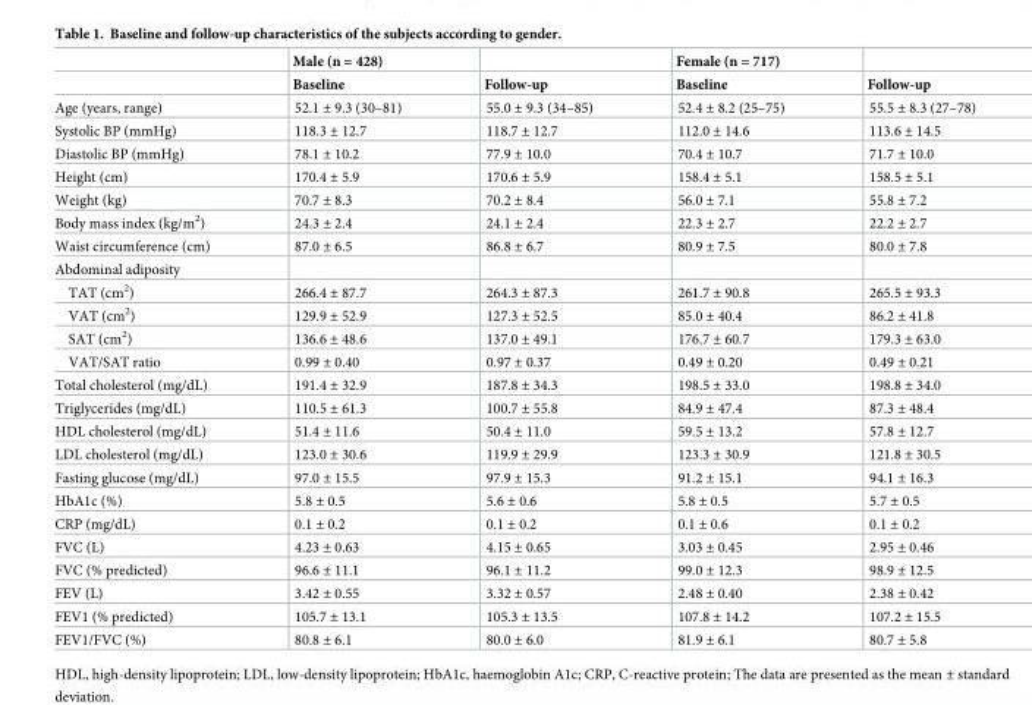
<table><thead><tr><td rowspan="2"></td><td rowspan="2">Male (n = 428) Baseline</td><td rowspan="2">Follow-up</td><td rowspan="2">Female (n = 717) Baseline</td><td rowspan="2">Follow-up</td></tr><tr></tr></thead><tbody><tr><td>Age (years, range)</td><td>52.1 ± 9.3 (30–81)</td><td>55.0 ± 9.3 (34–85)</td><td>52.4 ± 8.2 (25–75)</td><td>55.5 ± 8.3 (27–78)</td></tr><tr><td>Systolic BP (mmHg)</td><td>118.3 ± 12.7</td><td>118.7 ± 12.7</td><td>112.0 ± 14.6</td><td>113.6 ± 14.5</td></tr><tr><td>Diastolic BP (mmHg)</td><td>78.1 ± 10.2</td><td>77.9 ± 10.0</td><td>70.4 ± 10.7</td><td>71.7 ± 10.0</td></tr><tr><td>Height (cm)</td><td>170.4 ± 5.9</td><td>170.6 ± 5.9</td><td>158.4 ± 5.1</td><td>158.5 ± 5.1</td></tr><tr><td>Weight (kg)</td><td>70.7 ± 8.3</td><td>70.2 ± 8.4</td><td>56.0 ± 7.1</td><td>55.8 ± 7.2</td></tr><tr><td>Body mass index (kg/m<sup>2</sup>)</td><td>24.3 ± 2.4</td><td>24.1 ± 2.4</td><td>22.3 ± 2.7</td><td>22.2 ± 2.7</td></tr><tr><td>Waist circumference (cm)</td><td>87.0 ± 6.5</td><td>86.8 ± 6.7</td><td>80.9 ± 7.5</td><td>80.0 ± 7.8</td></tr><tr><td colspan="5">Abdominal adiposity</td></tr><tr><td>TAT (cm<sup>2</sup>)</td><td>266.4 ± 87.7</td><td>264.3 ± 87.3</td><td>261.7 ± 90.8</td><td>265.5 ± 93.3</td></tr><tr><td>VAT (cm<sup>2</sup>)</td><td>129.9 ± 52.9</td><td>127.3 ± 52.5</td><td>85.0 ± 40.4</td><td>86.2 ± 41.8</td></tr><tr><td>SAT (cm<sup>2</sup>)</td><td>136.6 ± 48.6</td><td>137.0 ± 49.1</td><td>176.7 ± 60.7</td><td>179.3 ± 63.0</td></tr><tr><td>VAT/SAT ratio</td><td>0.99 ± 0.40</td><td>0.97 ± 0.37</td><td>0.49 ± 0.20</td><td>0.49 ± 0.21</td></tr><tr><td>Total cholesterol (mg/dL)</td><td>191.4 ± 32.9</td><td>187.8 ± 34.3</td><td>198.5 ± 33.0</td><td>198.8 ± 34.0</td></tr><tr><td>Triglycerides (mg/dL)</td><td>110.5 ± 61.3</td><td>100.7 ± 55.8</td><td>84.9 ± 47.4</td><td>87.3 ± 48.4</td></tr><tr><td>HDL cholesterol (mg/dL)</td><td>51.4 ± 11.6</td><td>50.4 ± 11.0</td><td>59.5 ± 13.2</td><td>57.8 ± 12.7</td></tr><tr><td>LDL cholesterol (mg/dL)</td><td>123.0 ± 30.6</td><td>119.9 ± 29.9</td><td>123.3 ± 30.9</td><td>121.8 ± 30.5</td></tr><tr><td>Fasting glucose (mg/dL)</td><td>97.0 ± 15.5</td><td>97.9 ± 15.3</td><td>91.2 ± 15.1</td><td>94.1 ± 16.3</td></tr><tr><td>HbA1c (%)</td><td>5.8 ± 0.5</td><td>5.6 ± 0.6</td><td>5.8 ± 0.5</td><td>5.7 ± 0.5</td></tr><tr><td>CRP (mg/dL)</td><td>0.1 ± 0.2</td><td>0.1 ± 0.2</td><td>0.1 ± 0.6</td><td>0.1 ± 0.2</td></tr><tr><td>FVC (L)</td><td>4.23 ± 0.63</td><td>4.15 ± 0.65</td><td>3.03 ± 0.45</td><td>2.95 ± 0.46</td></tr><tr><td>FVC (% predicted)</td><td>96.6 ± 11.1</td><td>96.1 ± 11.2</td><td>99.0 ± 12.3</td><td>98.9 ± 12.5</td></tr><tr><td>FEV (L)</td><td>3.42 ± 0.55</td><td>3.32 ± 0.57</td><td>2.48 ± 0.40</td><td>2.38 ± 0.42</td></tr><tr><td>FEV1 (% predicted)</td><td>105.7 ± 13.1</td><td>105.3 ± 13.5</td><td>107.8 ± 14.2</td><td>107.2 ± 15.5</td></tr><tr><td>FEV1/FVC (%)</td><td>80.8 ± 6.1</td><td>80.0 ± 6.0</td><td>81.9 ± 6.1</td><td>80.7 ± 5.8</td></tr></tbody></table>